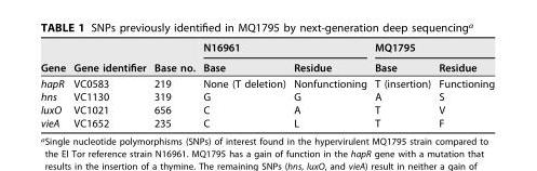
<table><thead><tr><td rowspan="2">Gene</td><td rowspan="2">Gene identifier</td><td rowspan="2">Base no.</td><td colspan="2">N16961</td><td colspan="2">MQ1795</td></tr><tr><td>Base</td><td>Residue</td><td>Base</td><td>Residue</td></tr></thead><tbody><tr><td>hapR</td><td>VC0583</td><td>219</td><td>None (T deletion)</td><td>Nonfunctioning</td><td>T (insertion)</td><td>Functioning</td></tr><tr><td>hns</td><td>VC1130</td><td>319</td><td>G</td><td>G</td><td>A</td><td>S</td></tr><tr><td>luxO</td><td>VC1021</td><td>656</td><td>C</td><td>A</td><td>T</td><td>V</td></tr><tr><td>vieA</td><td>VC1652</td><td>235</td><td>C</td><td>L</td><td>T</td><td>F</td></tr></tbody></table>